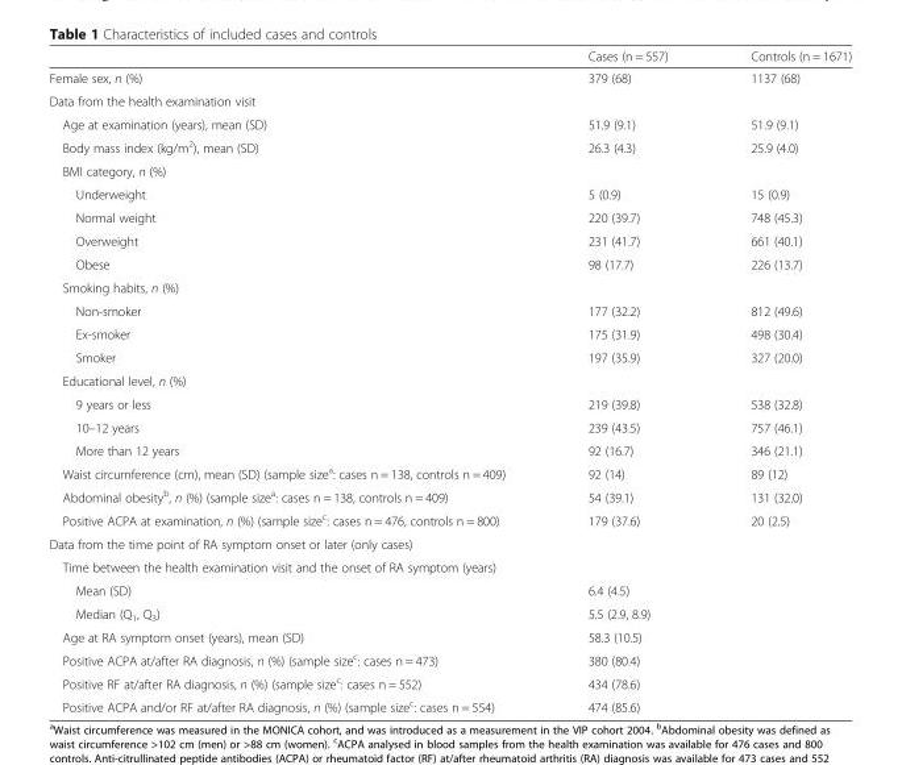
<table><thead><tr><td></td><td>Cases (n = 557)</td><td>Controls (n = 1671)</td></tr></thead><tbody><tr><td>Female sex, n (%)</td><td>379 (68)</td><td>1137 (68)</td></tr><tr><td colspan="3">Data from the health examination visit</td></tr><tr><td>Age at examination (years), mean (SD)</td><td>51.9 (9.1)</td><td>51.9 (9.1)</td></tr><tr><td>Body mass index (kg/m<sup>2</sup>), mean (SD)</td><td>26.3 (4.3)</td><td>25.9 (4.0)</td></tr><tr><td colspan="3">BMI category, n (%)</td></tr><tr><td>Underweight</td><td>5 (0.9)</td><td>15 (0.9)</td></tr><tr><td>Normal weight</td><td>220 (39.7)</td><td>748 (45.3)</td></tr><tr><td>Overweight</td><td>231 (41.7)</td><td>661 (40.1)</td></tr><tr><td>Obese</td><td>98 (17.7)</td><td>226 (13.7)</td></tr><tr><td colspan="3">Smoking habits, n (%)</td></tr><tr><td>Non-smoker</td><td>177 (32.2)</td><td>812 (49.6)</td></tr><tr><td>Ex-smoker</td><td>175 (31.9)</td><td>498 (30.4)</td></tr><tr><td>Smoker</td><td>197 (35.9)</td><td>327 (20.0)</td></tr><tr><td colspan="3">Educational level, n (%)</td></tr><tr><td>9 years or less</td><td>219 (39.8)</td><td>538 (32.8)</td></tr><tr><td>10–12 years</td><td>239 (43.5)</td><td>757 (46.1)</td></tr><tr><td>More than 12 years</td><td>92 (16.7)</td><td>346 (21.1)</td></tr><tr><td>Waist circumference (cm), mean (SD) (sample size<sup>a</sup>: cases n = 138, controls n = 409)</td><td>92 (14)</td><td>89 (12)</td></tr><tr><td>Abdominal obesity<sup>b</sup>, n (%) (sample size<sup>a</sup>: cases n = 138, controls n = 409)</td><td>54 (39.1)</td><td>131 (32.0)</td></tr><tr><td>Positive ACPA at examination, n (%) (sample size<sup>c</sup>: cases n = 476, controls n = 800)</td><td>179 (37.6)</td><td>20 (2.5)</td></tr><tr><td colspan="3">Data from the time point of RA symptom onset or later (only cases)</td></tr><tr><td colspan="3">Time between the health examination visit and the onset of RA symptom (years)</td></tr><tr><td>Mean (SD)</td><td>6.4 (4.5)</td><td></td></tr><tr><td>Median (Q<sub>1</sub>, Q<sub>3</sub>)</td><td>5.5 (2.9, 8.9)</td><td></td></tr><tr><td>Age at RA symptom onset (years), mean (SD)</td><td>58.3 (10.5)</td><td></td></tr><tr><td>Positive ACPA at/after RA diagnosis, n (%) (sample size<sup>c</sup>: cases n = 473)</td><td>380 (80.4)</td><td></td></tr><tr><td>Positive RF at/after RA diagnosis, n (%) (sample size<sup>c</sup>: cases n = 552)</td><td>434 (78.6)</td><td></td></tr><tr><td>Positive ACPA and/or RF at/after RA diagnosis, n (%) (sample size<sup>c</sup>: cases n = 554)</td><td>474 (85.6)</td><td></td></tr></tbody></table>